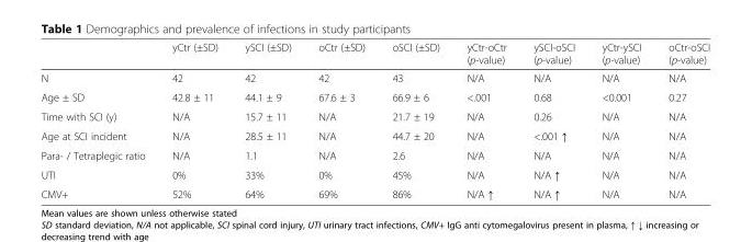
<table><thead><tr><td></td><td>yCtr (±SD)</td><td>ySCI (±SD)</td><td>oCtr (±SD)</td><td>oSCI (±SD)</td><td>yCtr-oCtr (p-value)</td><td>ySCI-oSCI (p-value)</td><td>yCtr-ySCI (p-value)</td><td>oCtr-oSCI (p-value)</td></tr></thead><tbody><tr><td>N</td><td>42</td><td>42</td><td>42</td><td>43</td><td>N/A</td><td>N/A</td><td>N/A</td><td>N/A</td></tr><tr><td>Age ± SD</td><td>42.8 ± 11</td><td>44.1 ± 9</td><td>67.6 ± 3</td><td>66.9 ± 6</td><td>&lt;.001</td><td>0.68</td><td>&lt;0.001</td><td>0.27</td></tr><tr><td>Time with SCI (y)</td><td>N/A</td><td>15.7 ± 11</td><td>N/A</td><td>21.7 ± 19</td><td>N/A</td><td>0.26</td><td>N/A</td><td>N/A</td></tr><tr><td>Age at SCI incident</td><td>N/A</td><td>28.5 ± 11</td><td>N/A</td><td>44.7 ± 20</td><td>N/A</td><td>&lt;.001 ↑</td><td>N/A</td><td>N/A</td></tr><tr><td>Para- / Tetraplegic ratio</td><td>N/A</td><td>1.1</td><td>N/A</td><td>2.6</td><td>N/A</td><td>N/A</td><td>N/A</td><td>N/A</td></tr><tr><td>UTI</td><td>0%</td><td>33%</td><td>0%</td><td>45%</td><td>N/A</td><td>N/A ↑</td><td>N/A</td><td>N/A</td></tr><tr><td>CMV+</td><td>52%</td><td>64%</td><td>69%</td><td>86%</td><td>N/A ↑</td><td>N/A ↑</td><td>N/A</td><td>N/A</td></tr></tbody></table>